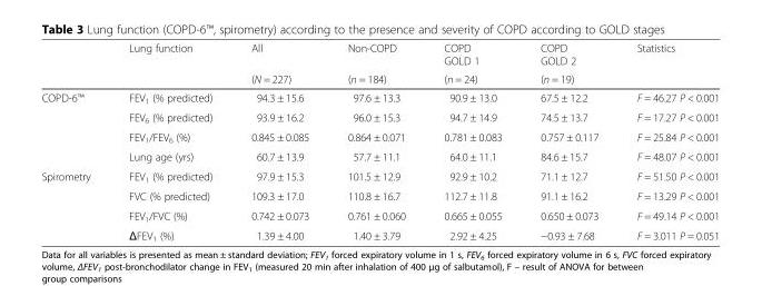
<table><thead><tr><td rowspan="2"></td><td rowspan="2">Lung function</td><td rowspan="2">All (N = 227)</td><td rowspan="2">Non-COPD (n = 184)</td><td rowspan="2">COPD GOLD 1 (n = 24)</td><td rowspan="2">COPD GOLD 2 (n = 19)</td><td rowspan="2">Statistics</td></tr><tr></tr></thead><tbody><tr><td rowspan="4">COPD-6™</td><td>FEV<sub>1</sub> (% predicted)</td><td>94.3 ± 15.6</td><td>97.6 ± 13.3</td><td>90.9 ± 13.0</td><td>67.5 ± 12.2</td><td>F = 46.27 P &lt; 0.001</td></tr><tr><td>FEV<sub>6</sub> (% predicted)</td><td>93.9 ± 16.2</td><td>96.0 ± 15.3</td><td>94.7 ± 14.9</td><td>74.5 ± 13.7</td><td>F = 17.27 P &lt; 0.001</td></tr><tr><td>FEV<sub>1</sub>/FEV<sub>6</sub> (%)</td><td>0.845 ± 0.085</td><td>0.864 ± 0.071</td><td>0.781 ± 0.083</td><td>0.757 ± 0.117</td><td>F = 25.84 P &lt; 0.001</td></tr><tr><td>Lung age (yrs)</td><td>60.7 ± 13.9</td><td>57.7 ± 11.1</td><td>64.0 ± 11.1</td><td>84.6 ± 15.7</td><td>F = 48.07 P &lt; 0.001</td></tr><tr><td rowspan="4">Spirometry</td><td>FEV<sub>1</sub> (% predicted)</td><td>97.9 ± 15.3</td><td>101.5 ± 12.9</td><td>92.9 ± 10.2</td><td>71.1 ± 12.7</td><td>F = 51.50 P &lt; 0.001</td></tr><tr><td>FVC (% predicted)</td><td>109.3 ± 17.0</td><td>110.8 ± 16.7</td><td>112.7 ± 11.8</td><td>91.1 ± 16.2</td><td>F = 13.29 P &lt; 0.001</td></tr><tr><td>FEV<sub>1</sub>/FVC (%)</td><td>0.742 ± 0.073</td><td>0.761 ± 0.060</td><td>0.665 ± 0.055</td><td>0.650 ± 0.073</td><td>F = 49.14 P &lt; 0.001</td></tr><tr><td>ΔFEV<sub>1</sub> (%)</td><td>1.39 ± 4.00</td><td>1.40 ± 3.79</td><td>2.92 ± 4.25</td><td>−0.93 ± 7.68</td><td>F = 3.011 P = 0.051</td></tr></tbody></table>